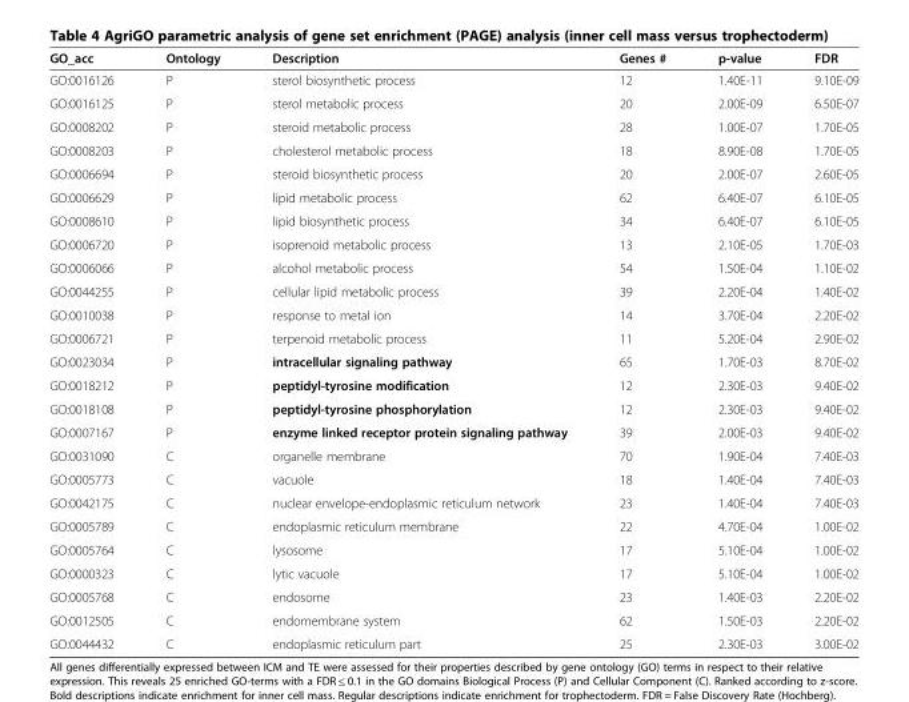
<table><thead><tr><td>GO_acc</td><td>Ontology</td><td>Description</td><td>Genes #</td><td>p-value</td><td>FDR</td></tr></thead><tbody><tr><td>GO:0016126</td><td>P</td><td>sterol biosynthetic process</td><td>12</td><td>1.40E-11</td><td>9.10E-09</td></tr><tr><td>GO:0016125</td><td>P</td><td>sterol metabolic process</td><td>20</td><td>2.00E-09</td><td>6.50E-07</td></tr><tr><td>GO:0008202</td><td>P</td><td>steroid metabolic process</td><td>28</td><td>1.00E-07</td><td>1.70E-05</td></tr><tr><td>GO:0008203</td><td>P</td><td>cholesterol metabolic process</td><td>18</td><td>8.90E-08</td><td>1.70E-05</td></tr><tr><td>GO:0006694</td><td>P</td><td>steroid biosynthetic process</td><td>20</td><td>2.00E-07</td><td>2.60E-05</td></tr><tr><td>GO:0006629</td><td>P</td><td>lipid metabolic process</td><td>62</td><td>6.40E-07</td><td>6.10E-05</td></tr><tr><td>GO:0008610</td><td>P</td><td>lipid biosynthetic process</td><td>34</td><td>6.40E-07</td><td>6.10E-05</td></tr><tr><td>GO:0006720</td><td>P</td><td>isoprenoid metabolic process</td><td>13</td><td>2.10E-05</td><td>1.70E-03</td></tr><tr><td>GO:0006066</td><td>P</td><td>alcohol metabolic process</td><td>54</td><td>1.50E-04</td><td>1.10E-02</td></tr><tr><td>GO:0044255</td><td>P</td><td>cellular lipid metabolic process</td><td>39</td><td>2.20E-04</td><td>1.40E-02</td></tr><tr><td>GO:0010038</td><td>P</td><td>response to metal ion</td><td>14</td><td>3.70E-04</td><td>2.20E-02</td></tr><tr><td>GO:0006721</td><td>P</td><td>terpenoid metabolic process</td><td>11</td><td>5.20E-04</td><td>2.90E-02</td></tr><tr><td>GO:0023034</td><td>P</td><td>intracellular signaling pathway</td><td>65</td><td>1.70E-03</td><td>8.70E-02</td></tr><tr><td>GO:0018212</td><td>P</td><td>peptidyl-tyrosine modification</td><td>12</td><td>2.30E-03</td><td>9.40E-02</td></tr><tr><td>GO:0018108</td><td>P</td><td>peptidyl-tyrosine phosphorylation</td><td>12</td><td>2.30E-03</td><td>9.40E-02</td></tr><tr><td>GO:0007167</td><td>P</td><td>enzyme linked receptor protein signaling pathway</td><td>39</td><td>2.00E-03</td><td>9.40E-02</td></tr><tr><td>GO:0031090</td><td>C</td><td>organelle membrane</td><td>70</td><td>1.90E-04</td><td>7.40E-03</td></tr><tr><td>GO:0005773</td><td>C</td><td>vacuole</td><td>18</td><td>1.40E-04</td><td>7.40E-03</td></tr><tr><td>GO:0042175</td><td>C</td><td>nuclear envelope-endoplasmic reticulum network</td><td>23</td><td>1.40E-04</td><td>7.40E-03</td></tr><tr><td>GO:0005789</td><td>C</td><td>endoplasmic reticulum membrane</td><td>22</td><td>4.70E-04</td><td>1.00E-02</td></tr><tr><td>GO:0005764</td><td>C</td><td>lysosome</td><td>17</td><td>5.10E-04</td><td>1.00E-02</td></tr><tr><td>GO:0000323</td><td>C</td><td>lytic vacuole</td><td>17</td><td>5.10E-04</td><td>1.00E-02</td></tr><tr><td>GO:0005768</td><td>C</td><td>endosome</td><td>23</td><td>1.40E-03</td><td>2.20E-02</td></tr><tr><td>GO:0012505</td><td>C</td><td>endomembrane system</td><td>62</td><td>1.50E-03</td><td>2.20E-02</td></tr><tr><td>GO:0044432</td><td>C</td><td>endoplasmic reticulum part</td><td>25</td><td>2.30E-03</td><td>3.00E-02</td></tr></tbody></table>